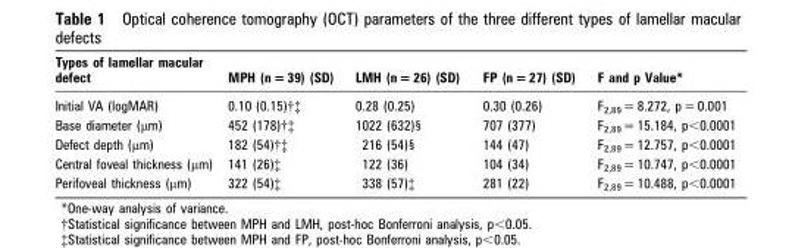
<table><thead><tr><td>Types of lamellar macular defect</td><td>MPH (n = 39) (SD)</td><td>LMH (n = 26) (SD)</td><td>FP (n = 27) (SD)</td><td>F and p Value*</td></tr></thead><tbody><tr><td>Initial VA (logMAR)</td><td>0.10 (0.15)†‡</td><td>0.28 (0.25)</td><td>0.30 (0.26)</td><td>F<sub>2,89</sub> = 8.272, p = 0.001</td></tr><tr><td>Base diameter (μm)</td><td>452 (178)†‡</td><td>1022 (632)§</td><td>707 (377)</td><td>F<sub>2,89</sub> = 15.184, p&lt;0.0001</td></tr><tr><td>Defect depth (μm)</td><td>182 (54)†‡</td><td>216 (54)§</td><td>144 (47)</td><td>F<sub>2,89</sub> = 12.757, p&lt;0.0001</td></tr><tr><td>Central foveal thickness (μm)</td><td>141 (26)‡</td><td>122 (36)</td><td>104 (34)</td><td>F<sub>2,89</sub> = 10.747, p&lt;0.0001</td></tr><tr><td>Perifoveal thickness (μm)</td><td>322 (54)‡</td><td>338 (57)‡</td><td>281 (22)</td><td>F<sub>2,89</sub> = 10.488, p&lt;0.0001</td></tr></tbody></table>